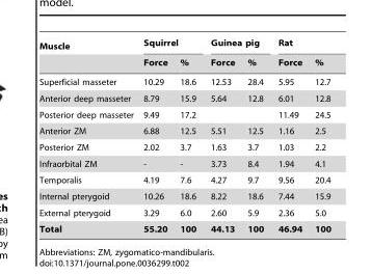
<table><thead><tr><td rowspan="2">Muscle</td><td colspan="2">Squirrel</td><td colspan="2">Guinea pig</td><td colspan="2">Rat</td></tr><tr><td>Force</td><td>%</td><td>Force</td><td>%</td><td>Force</td><td>%</td></tr></thead><tbody><tr><td>Superficial masseter</td><td>10.29</td><td>18.6</td><td>12.53</td><td>28.4</td><td>5.95</td><td>12.7</td></tr><tr><td>Anterior deep masseter</td><td>8.79</td><td>15.9</td><td>5.64</td><td>12.8</td><td>6.01</td><td>12.8</td></tr><tr><td>Posterior deep masseter</td><td>9.49</td><td>17.2</td><td></td><td></td><td>11.49</td><td>24.5</td></tr><tr><td>Anterior ZM</td><td>6.88</td><td>12.5</td><td>5.51</td><td>12.5</td><td>1.16</td><td>2.5</td></tr><tr><td>Posterior ZM</td><td>2.02</td><td>3.7</td><td>1.63</td><td>3.7</td><td>1.03</td><td>2.2</td></tr><tr><td>Infraorbital ZM</td><td>-</td><td>-</td><td>3.73</td><td>8.4</td><td>1.94</td><td>4.1</td></tr><tr><td>Temporalis</td><td>4.19</td><td>7.6</td><td>4.27</td><td>9.7</td><td>9.56</td><td>20.4</td></tr><tr><td>Internal pterygoid</td><td>10.26</td><td>18.6</td><td>8.22</td><td>18.6</td><td>7.44</td><td>15.9</td></tr><tr><td>External pterygoid</td><td>3.29</td><td>6.0</td><td>2.60</td><td>5.9</td><td>2.36</td><td>5.0</td></tr><tr><td>Total</td><td>55.20</td><td>100</td><td>44.13</td><td>100</td><td>46.94</td><td>100</td></tr></tbody></table>